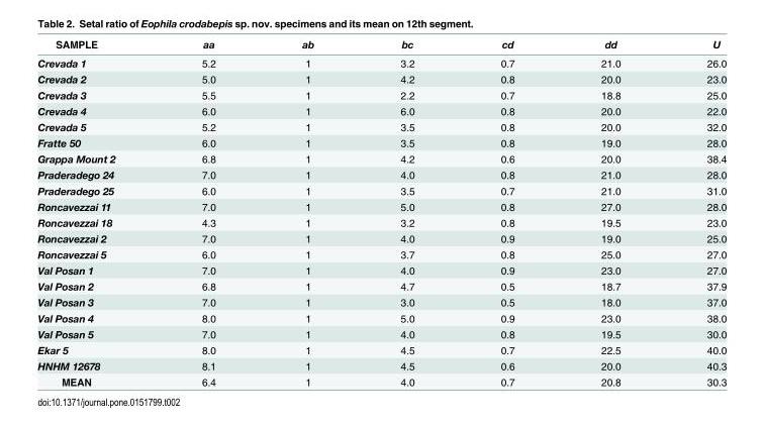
<table><thead><tr><td>SAMPLE</td><td>aa</td><td>ab</td><td>bc</td><td>cd</td><td>dd</td><td>U</td></tr></thead><tbody><tr><td>Crevada 1</td><td>5.2</td><td>1</td><td>3.2</td><td>0.7</td><td>21.0</td><td>26.0</td></tr><tr><td>Crevada 2</td><td>5.0</td><td>1</td><td>4.2</td><td>0.8</td><td>20.0</td><td>23.0</td></tr><tr><td>Crevada 3</td><td>5.5</td><td>1</td><td>2.2</td><td>0.7</td><td>18.8</td><td>25.0</td></tr><tr><td>Crevada 4</td><td>6.0</td><td>1</td><td>6.0</td><td>0.8</td><td>20.0</td><td>22.0</td></tr><tr><td>Crevada 5</td><td>5.2</td><td>1</td><td>3.5</td><td>0.8</td><td>20.0</td><td>32.0</td></tr><tr><td>Fratte 50</td><td>6.0</td><td>1</td><td>3.5</td><td>0.8</td><td>19.0</td><td>28.0</td></tr><tr><td>Grappa Mount 2</td><td>6.8</td><td>1</td><td>4.2</td><td>0.6</td><td>20.0</td><td>38.4</td></tr><tr><td>Praderadego 24</td><td>7.0</td><td>1</td><td>4.0</td><td>0.8</td><td>21.0</td><td>28.0</td></tr><tr><td>Praderadego 25</td><td>6.0</td><td>1</td><td>3.5</td><td>0.7</td><td>21.0</td><td>31.0</td></tr><tr><td>Roncavezzai 11</td><td>7.0</td><td>1</td><td>5.0</td><td>0.8</td><td>27.0</td><td>28.0</td></tr><tr><td>Roncavezzai 18</td><td>4.3</td><td>1</td><td>3.2</td><td>0.8</td><td>19.5</td><td>23.0</td></tr><tr><td>Roncavezzai 2</td><td>7.0</td><td>1</td><td>4.0</td><td>0.9</td><td>19.0</td><td>25.0</td></tr><tr><td>Roncavezzai 5</td><td>6.0</td><td>1</td><td>3.7</td><td>0.8</td><td>25.0</td><td>27.0</td></tr><tr><td>Val Posan 1</td><td>7.0</td><td>1</td><td>4.0</td><td>0.9</td><td>23.0</td><td>27.0</td></tr><tr><td>Val Posan 2</td><td>6.8</td><td>1</td><td>4.7</td><td>0.5</td><td>18.7</td><td>37.9</td></tr><tr><td>Val Posan 3</td><td>7.0</td><td>1</td><td>3.0</td><td>0.5</td><td>18.0</td><td>37.0</td></tr><tr><td>Val Posan 4</td><td>8.0</td><td>1</td><td>5.0</td><td>0.9</td><td>23.0</td><td>38.0</td></tr><tr><td>Val Posan 5</td><td>7.0</td><td>1</td><td>4.0</td><td>0.8</td><td>19.5</td><td>30.0</td></tr><tr><td>Ekar 5</td><td>8.0</td><td>1</td><td>4.5</td><td>0.7</td><td>22.5</td><td>40.0</td></tr><tr><td>HNHM 12678</td><td>8.1</td><td>1</td><td>4.5</td><td>0.6</td><td>20.0</td><td>40.3</td></tr><tr><td>MEAN</td><td>6.4</td><td>1</td><td>4.0</td><td>0.7</td><td>20.8</td><td>30.3</td></tr></tbody></table>